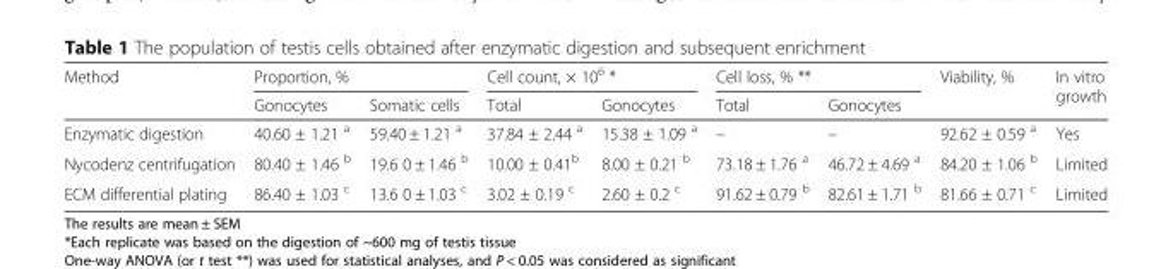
<table><thead><tr><td rowspan="2">Method</td><td colspan="2">Proportion, %</td><td colspan="2">Cell count, × 10<sup>6</sup> *</td><td colspan="2">Cell loss, % **</td><td rowspan="2">Viability, %</td><td rowspan="2">In vitro growth</td></tr><tr><td>Gonocytes</td><td>Somatic cells</td><td>Total</td><td>Gonocytes</td><td>Total</td><td>Gonocytes</td></tr></thead><tbody><tr><td>Enzymatic digestion</td><td>40.60 ± 1.21 <sup>a</sup></td><td>59.40 ± 1.21 <sup>a</sup></td><td>37.84 ± 2.44 <sup>a</sup></td><td>15.38 ± 1.09 <sup>a</sup></td><td>–</td><td>–</td><td>92.62 ± 0.59 <sup>a</sup></td><td>Yes</td></tr><tr><td>Nycodenz centrifugation</td><td>80.40 ± 1.46 <sup>b</sup></td><td>19.6 0 ± 1.46 <sup>b</sup></td><td>10.00 ± 0.41<sup>b</sup></td><td>8.00 ± 0.21 <sup>b</sup></td><td>73.18 ± 1.76 <sup>a</sup></td><td>46.72 ± 4.69 <sup>a</sup></td><td>84.20 ± 1.06 <sup>b</sup></td><td>Limited</td></tr><tr><td>ECM differential plating</td><td>86.40 ± 1.03 <sup>c</sup></td><td>13.6 0 ± 1.03 <sup>c</sup></td><td>3.02 ± 0.19 <sup>c</sup></td><td>2.60 ± 0.2 <sup>c</sup></td><td>91.62 ± 0.79 <sup>b</sup></td><td>82.61 ± 1.71 <sup>b</sup></td><td>81.66 ± 0.71 <sup>c</sup></td><td>Limited</td></tr></tbody></table>